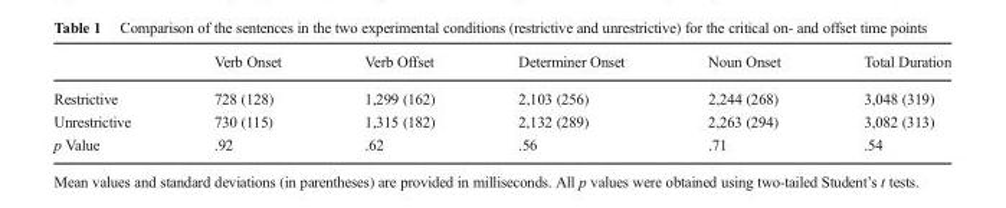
<table><thead><tr><td></td><td>Verb Onset</td><td>Verb Offset</td><td>Determiner Onset</td><td>Noun Onset</td><td>Total Duration</td></tr></thead><tbody><tr><td>Restrictive</td><td>728 (128)</td><td>1,299 (162)</td><td>2,103 (256)</td><td>2,244 (268)</td><td>3,048 (319)</td></tr><tr><td>Unrestrictive</td><td>730 (115)</td><td>1,315 (182)</td><td>2,132 (289)</td><td>2,263 (294)</td><td>3,082 (313)</td></tr><tr><td>p Value</td><td>.92</td><td>.62</td><td>.56</td><td>.71</td><td>.54</td></tr></tbody></table>